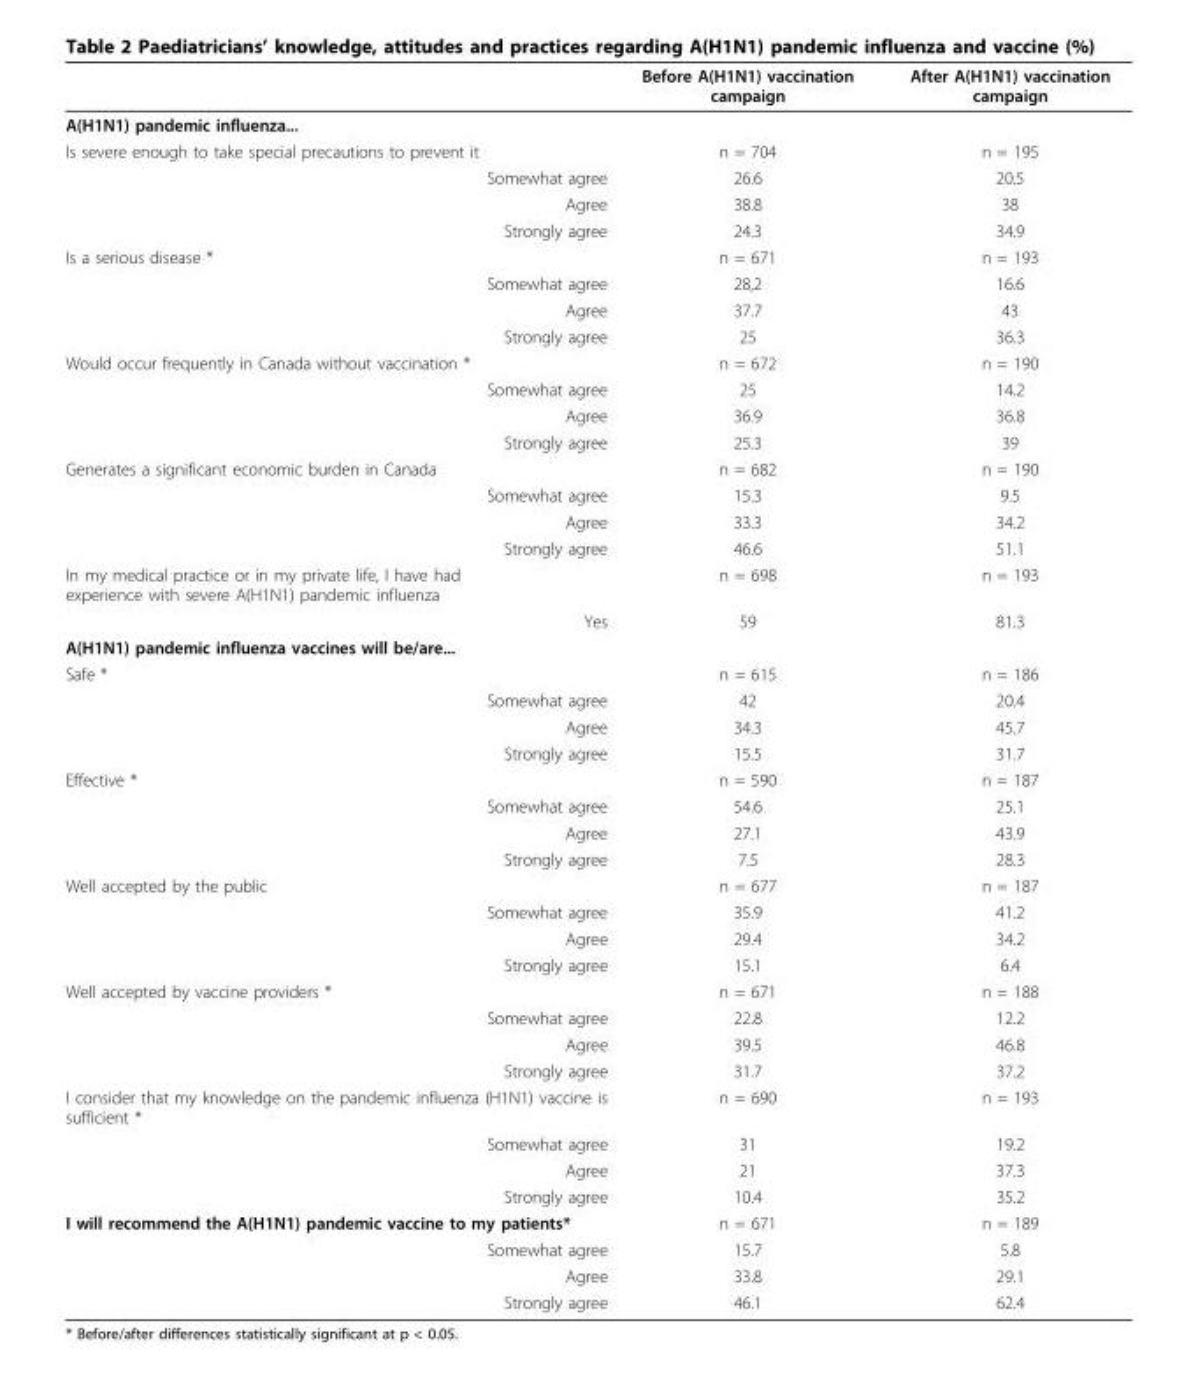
<table><thead><tr><td></td><td>Before A(H1N1) vaccination campaign</td><td>After A(H1N1) vaccination campaign</td></tr></thead><tbody><tr><td colspan="3">A(H1N1) pandemic influenza...</td></tr><tr><td>Is severe enough to take special precautions to prevent it</td><td>n = 704</td><td>n = 195</td></tr><tr><td>Somewhat agree</td><td>26.6</td><td>20.5</td></tr><tr><td>Agree</td><td>38.8</td><td>38</td></tr><tr><td>Strongly agree</td><td>24.3</td><td>34.9</td></tr><tr><td>Is a serious disease *</td><td>n = 671</td><td>n = 193</td></tr><tr><td>Somewhat agree</td><td>28,2</td><td>16.6</td></tr><tr><td>Agree</td><td>37.7</td><td>43</td></tr><tr><td>Strongly agree</td><td>25</td><td>36.3</td></tr><tr><td>Would occur frequently in Canada without vaccination *</td><td>n = 672</td><td>n = 190</td></tr><tr><td>Somewhat agree</td><td>25</td><td>14.2</td></tr><tr><td>Agree</td><td>36.9</td><td>36.8</td></tr><tr><td>Strongly agree</td><td>25.3</td><td>39</td></tr><tr><td>Generates a significant economic burden in Canada</td><td>n = 682</td><td>n = 190</td></tr><tr><td>Somewhat agree</td><td>15.3</td><td>9.5</td></tr><tr><td>Agree</td><td>33.3</td><td>34.2</td></tr><tr><td>Strongly agree</td><td>46.6</td><td>51.1</td></tr><tr><td>In my medical practice or in my private life, I have had experience with severe A(H1N1) pandemic influenza</td><td>n = 698</td><td>n = 193</td></tr><tr><td>Yes</td><td>59</td><td>81.3</td></tr><tr><td colspan="3">A(H1N1) pandemic influenza vaccines will be/are...</td></tr><tr><td>Safe *</td><td>n = 615</td><td>n = 186</td></tr><tr><td>Somewhat agree</td><td>42</td><td>20.4</td></tr><tr><td>Agree</td><td>34.3</td><td>45.7</td></tr><tr><td>Strongly agree</td><td>15.5</td><td>31.7</td></tr><tr><td>Effective *</td><td>n = 590</td><td>n = 187</td></tr><tr><td>Somewhat agree</td><td>54.6</td><td>25.1</td></tr><tr><td>Agree</td><td>27.1</td><td>43.9</td></tr><tr><td>Strongly agree</td><td>7.5</td><td>28.3</td></tr><tr><td>Well accepted by the public</td><td>n = 677</td><td>n = 187</td></tr><tr><td>Somewhat agree</td><td>35.9</td><td>41.2</td></tr><tr><td>Agree</td><td>29.4</td><td>34.2</td></tr><tr><td>Strongly agree</td><td>15.1</td><td>6.4</td></tr><tr><td>Well accepted by vaccine providers *</td><td>n = 671</td><td>n = 188</td></tr><tr><td>Somewhat agree</td><td>22.8</td><td>12.2</td></tr><tr><td>Agree</td><td>39.5</td><td>46.8</td></tr><tr><td>Strongly agree</td><td>31.7</td><td>37.2</td></tr><tr><td>I consider that my knowledge on the pandemic influenza (H1N1) vaccine is sufficient *</td><td>n = 690</td><td>n = 193</td></tr><tr><td>Somewhat agree</td><td>31</td><td>19.2</td></tr><tr><td>Agree</td><td>21</td><td>37.3</td></tr><tr><td>Strongly agree</td><td>10.4</td><td>35.2</td></tr><tr><td>I will recommend the A(H1N1) pandemic vaccine to my patients*</td><td>n = 671</td><td>n = 189</td></tr><tr><td>Somewhat agree</td><td>15.7</td><td>5.8</td></tr><tr><td>Agree</td><td>33.8</td><td>29.1</td></tr><tr><td>Strongly agree</td><td>46.1</td><td>62.4</td></tr></tbody></table>